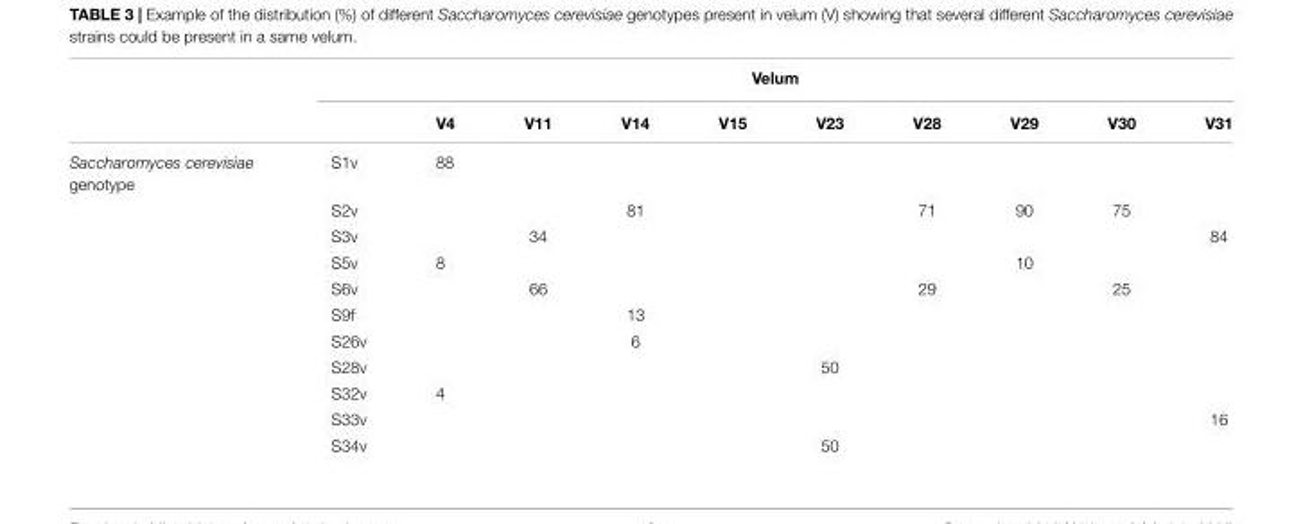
<table><thead><tr><td rowspan="2"></td><td colspan="10">Velum</td></tr><tr><td></td><td>V4</td><td>V11</td><td>V14</td><td>V15</td><td>V23</td><td>V28</td><td>V29</td><td>V30</td><td>V31</td></tr></thead><tbody><tr><td rowspan="11">Saccharomyces cerevisiae genotype</td><td>S1v</td><td>88</td><td></td><td></td><td></td><td></td><td></td><td></td><td></td><td></td></tr><tr><td>S2v</td><td></td><td></td><td>81</td><td></td><td></td><td>71</td><td>90</td><td>75</td><td></td></tr><tr><td>S3v</td><td></td><td>34</td><td></td><td></td><td></td><td></td><td></td><td></td><td>84</td></tr><tr><td>S5v</td><td>8</td><td></td><td></td><td></td><td></td><td></td><td>10</td><td></td><td></td></tr><tr><td>S6v</td><td></td><td>66</td><td></td><td></td><td></td><td>29</td><td></td><td>25</td><td></td></tr><tr><td>S9f</td><td></td><td></td><td>13</td><td></td><td></td><td></td><td></td><td></td><td></td></tr><tr><td>S26v</td><td></td><td></td><td>6</td><td></td><td></td><td></td><td></td><td></td><td></td></tr><tr><td>S28v</td><td></td><td></td><td></td><td></td><td>50</td><td></td><td></td><td></td><td></td></tr><tr><td>S32v</td><td>4</td><td></td><td></td><td></td><td></td><td></td><td></td><td></td><td></td></tr><tr><td>S33v</td><td></td><td></td><td></td><td></td><td></td><td></td><td></td><td></td><td>16</td></tr><tr><td>S34v</td><td></td><td></td><td></td><td></td><td>50</td><td></td><td></td><td></td><td></td></tr></tbody></table>